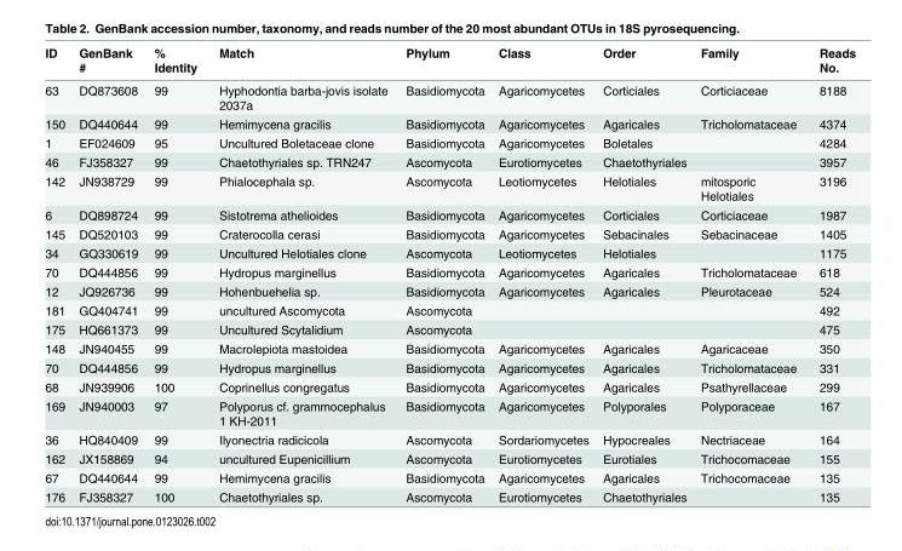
<table><thead><tr><td>ID</td><td>GenBank #</td><td>% Identity</td><td>Match</td><td>Phylum</td><td>Class</td><td>Order</td><td>Family</td><td>Reads No.</td></tr></thead><tbody><tr><td>63</td><td>DQ873608</td><td>99</td><td>Hyphodontia barba-jovis isolate 2037a</td><td>Basidiomycota</td><td>Agaricomycetes</td><td>Corticiales</td><td>Corticiaceae</td><td>8188</td></tr><tr><td>150</td><td>DQ440644</td><td>99</td><td>Hemimycena gracilis</td><td>Basidiomycota</td><td>Agaricomycetes</td><td>Agaricales</td><td>Tricholomataceae</td><td>4374</td></tr><tr><td>1</td><td>EF024609</td><td>95</td><td>Uncultured Boletaceae clone</td><td>Basidiomycota</td><td>Agaricomycetes</td><td>Boletales</td><td></td><td>4284</td></tr><tr><td>46</td><td>FJ358327</td><td>99</td><td>Chaetothyriales sp. TRN247</td><td>Ascomycota</td><td>Eurotiomycetes</td><td>Chaetothyriales</td><td></td><td>3957</td></tr><tr><td>142</td><td>JN938729</td><td>99</td><td>Phialocephala sp.</td><td>Ascomycota</td><td>Leotiomycetes</td><td>Helotiales</td><td>mitosporic Helotiales</td><td>3196</td></tr><tr><td>6</td><td>DQ898724</td><td>99</td><td>Sistotrema athelioides</td><td>Basidiomycota</td><td>Agaricomycetes</td><td>Corticiales</td><td>Corticiaceae</td><td>1987</td></tr><tr><td>145</td><td>DQ520103</td><td>99</td><td>Craterocolla cerasi</td><td>Basidiomycota</td><td>Agaricomycetes</td><td>Sebacinales</td><td>Sebacinaceae</td><td>1405</td></tr><tr><td>34</td><td>GQ330619</td><td>99</td><td>Uncultured Helotiales clone</td><td>Ascomycota</td><td>Leotiomycetes</td><td>Helotiales</td><td></td><td>1175</td></tr><tr><td>70</td><td>DQ444856</td><td>99</td><td>Hydropus marginellus</td><td>Basidiomycota</td><td>Agaricomycetes</td><td>Agaricales</td><td>Tricholomataceae</td><td>618</td></tr><tr><td>12</td><td>JQ926736</td><td>99</td><td>Hohenbuehelia sp.</td><td>Basidiomycota</td><td>Agaricomycetes</td><td>Agaricales</td><td>Pleurotaceae</td><td>524</td></tr><tr><td>181</td><td>GQ404741</td><td>99</td><td>uncultured Ascomycota</td><td>Ascomycota</td><td></td><td></td><td></td><td>492</td></tr><tr><td>175</td><td>HQ661373</td><td>99</td><td>Uncultured Scytalidium</td><td>Ascomycota</td><td></td><td></td><td></td><td>475</td></tr><tr><td>148</td><td>JN940455</td><td>99</td><td>Macrolepiota mastoidea</td><td>Basidiomycota</td><td>Agaricomycetes</td><td>Agaricales</td><td>Agaricaceae</td><td>350</td></tr><tr><td>70</td><td>DQ444856</td><td>99</td><td>Hydropus marginellus</td><td>Basidiomycota</td><td>Agaricomycetes</td><td>Agaricales</td><td>Tricholomataceae</td><td>331</td></tr><tr><td>68</td><td>JN939906</td><td>100</td><td>Coprinellus congregatus</td><td>Basidiomycota</td><td>Agaricomycetes</td><td>Agaricales</td><td>Psathyrellaceae</td><td>299</td></tr><tr><td>169</td><td>JN940003</td><td>97</td><td>Polyporus cf. grammocephalus 1 KH-2011</td><td>Basidiomycota</td><td>Agaricomycetes</td><td>Polyporales</td><td>Polyporaceae</td><td>167</td></tr><tr><td>36</td><td>HQ840409</td><td>99</td><td>Ilyonectria radicicola</td><td>Ascomycota</td><td>Sordariomycetes</td><td>Hypocreales</td><td>Nectriaceae</td><td>164</td></tr><tr><td>162</td><td>JX158869</td><td>94</td><td>uncultured Eupenicillium</td><td>Ascomycota</td><td>Eurotiomycetes</td><td>Eurotiales</td><td>Trichocomaceae</td><td>155</td></tr><tr><td>67</td><td>DQ440644</td><td>99</td><td>Hemimycena gracilis</td><td>Basidiomycota</td><td>Agaricomycetes</td><td>Agaricales</td><td>Trichocomaceae</td><td>135</td></tr><tr><td>176</td><td>FJ358327</td><td>100</td><td>Chaetothyriales sp.</td><td>Ascomycota</td><td>Eurotiomycetes</td><td>Chaetothyriales</td><td></td><td>135</td></tr></tbody></table>